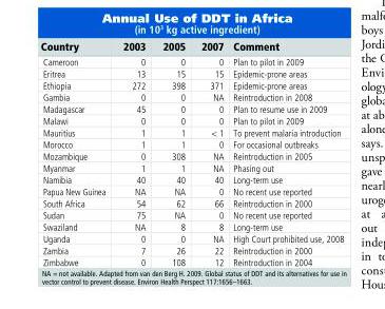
<table><thead><tr><td>country</td><td>2003</td><td>2005</td><td>2007</td><td>comment</td></tr></thead><tbody><tr><td>Cameroon</td><td>0</td><td>0</td><td>0</td><td>Plan to pilot in 2009</td></tr><tr><td>Eritrea</td><td>13</td><td>15</td><td>15</td><td>Epidemic-prone areas</td></tr><tr><td>Ethiopia</td><td>272</td><td>398</td><td>371</td><td>Epidemic-prone areas</td></tr><tr><td>Gambia</td><td>0</td><td>0</td><td>NA</td><td>Reintroduction in 2008</td></tr><tr><td>Madagascar</td><td>45</td><td>0</td><td>0</td><td>Plan to resume use in 2009</td></tr><tr><td>Malawi</td><td>0</td><td>0</td><td>0</td><td>Plan to pilot in 2009</td></tr><tr><td>Mauritius</td><td>1</td><td>1</td><td>&lt; 1</td><td>To prevent malaria introduction</td></tr><tr><td>Morocco</td><td>1</td><td>1</td><td>0</td><td>For occasional outbreaks</td></tr><tr><td>Mozambique</td><td>0</td><td>308</td><td>NA</td><td>Reintroduction in 2005</td></tr><tr><td>Myanmar</td><td>1</td><td>1</td><td>NA</td><td>Phasing out</td></tr><tr><td>Namibia</td><td>40</td><td>40</td><td>40</td><td>Long-term use</td></tr><tr><td>Papua New Guinea</td><td>NA</td><td>NA</td><td>0</td><td>No recent use reported</td></tr><tr><td>South Africa</td><td>54</td><td>62</td><td>66</td><td>Reintroduction in 2000</td></tr><tr><td>Sudan</td><td>75</td><td>NA</td><td>0</td><td>No recent use reported</td></tr><tr><td>Swaziland</td><td>NA</td><td>8</td><td>8</td><td>Long-term use</td></tr><tr><td>Uganda</td><td>0</td><td>0</td><td>NA</td><td>High Court prohibited use, 2008</td></tr><tr><td>Zambia</td><td>7</td><td>26</td><td>22</td><td>Reintroduction in 2000</td></tr><tr><td>Zimbabwe</td><td>0</td><td>108</td><td>12</td><td>Reintroduction in 2004</td></tr></tbody></table>